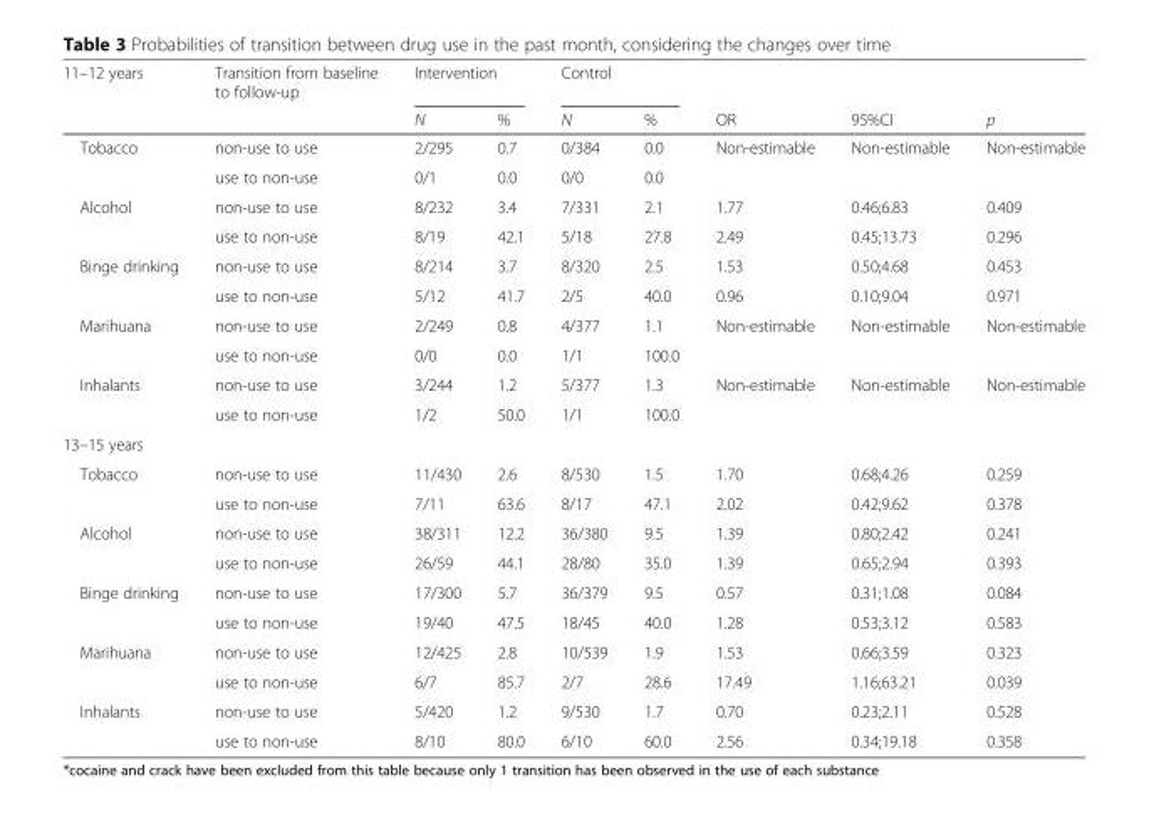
<table><thead><tr><td rowspan="2">11–12 years</td><td rowspan="2">Transition from baseline to follow-up</td><td colspan="2">Intervention</td><td colspan="2">Control</td><td rowspan="2">OR</td><td rowspan="2">95%CI</td><td rowspan="2">p</td></tr><tr><td>N</td><td>%</td><td>N</td><td>%</td></tr></thead><tbody><tr><td rowspan="2">Tobacco</td><td>non-use to use</td><td>2/295</td><td>0.7</td><td>0/384</td><td>0.0</td><td rowspan="2">Non-estimable</td><td rowspan="2">Non-estimable</td><td rowspan="2">Non-estimable</td></tr><tr><td>use to non-use</td><td>0/1</td><td>0.0</td><td>0/0</td><td>0.0</td></tr><tr><td rowspan="2">Alcohol</td><td>non-use to use</td><td>8/232</td><td>3.4</td><td>7/331</td><td>2.1</td><td>1.77</td><td>0.46;6.83</td><td>0.409</td></tr><tr><td>use to non-use</td><td>8/19</td><td>42.1</td><td>5/18</td><td>27.8</td><td>2.49</td><td>0.45;13.73</td><td>0.296</td></tr><tr><td rowspan="2">Binge drinking</td><td>non-use to use</td><td>8/214</td><td>3.7</td><td>8/320</td><td>2.5</td><td>1.53</td><td>0.50;4.68</td><td>0.453</td></tr><tr><td>use to non-use</td><td>5/12</td><td>41.7</td><td>2/5</td><td>40.0</td><td>0.96</td><td>0.10;9.04</td><td>0.971</td></tr><tr><td rowspan="2">Marihuana</td><td>non-use to use</td><td>2/249</td><td>0.8</td><td>4/377</td><td>1.1</td><td rowspan="2">Non-estimable</td><td rowspan="2">Non-estimable</td><td rowspan="2">Non-estimable</td></tr><tr><td>use to non-use</td><td>0/0</td><td>0.0</td><td>1/1</td><td>100.0</td></tr><tr><td rowspan="2">Inhalants</td><td>non-use to use</td><td>3/244</td><td>1.2</td><td>5/377</td><td>1.3</td><td rowspan="2">Non-estimable</td><td rowspan="2">Non-estimable</td><td rowspan="2">Non-estimable</td></tr><tr><td>use to non-use</td><td>1/2</td><td>50.0</td><td>1/1</td><td>100.0</td></tr><tr><td colspan="9">13–15 years</td></tr><tr><td rowspan="2">Tobacco</td><td>non-use to use</td><td>11/430</td><td>2.6</td><td>8/530</td><td>1.5</td><td>1.70</td><td>0.68;4.26</td><td>0.259</td></tr><tr><td>use to non-use</td><td>7/11</td><td>63.6</td><td>8/17</td><td>47.1</td><td>2.02</td><td>0.42;9.62</td><td>0.378</td></tr><tr><td rowspan="2">Alcohol</td><td>non-use to use</td><td>38/311</td><td>12.2</td><td>36/380</td><td>9.5</td><td>1.39</td><td>0.80;2.42</td><td>0.241</td></tr><tr><td>use to non-use</td><td>26/59</td><td>44.1</td><td>28/80</td><td>35.0</td><td>1.39</td><td>0.65;2.94</td><td>0.393</td></tr><tr><td rowspan="2">Binge drinking</td><td>non-use to use</td><td>17/300</td><td>5.7</td><td>36/379</td><td>9.5</td><td>0.57</td><td>0.31;1.08</td><td>0.084</td></tr><tr><td>use to non-use</td><td>19/40</td><td>47.5</td><td>18/45</td><td>40.0</td><td>1.28</td><td>0.53;3.12</td><td>0.583</td></tr><tr><td rowspan="2">Marihuana</td><td>non-use to use</td><td>12/425</td><td>2.8</td><td>10/539</td><td>1.9</td><td>1.53</td><td>0.66;3.59</td><td>0.323</td></tr><tr><td>use to non-use</td><td>6/7</td><td>85.7</td><td>2/7</td><td>28.6</td><td>17.49</td><td>1.16;63.21</td><td>0.039</td></tr><tr><td rowspan="2">Inhalants</td><td>non-use to use</td><td>5/420</td><td>1.2</td><td>9/530</td><td>1.7</td><td>0.70</td><td>0.23;2.11</td><td>0.528</td></tr><tr><td>use to non-use</td><td>8/10</td><td>80.0</td><td>6/10</td><td>60.0</td><td>2.56</td><td>0.34;19.18</td><td>0.358</td></tr></tbody></table>